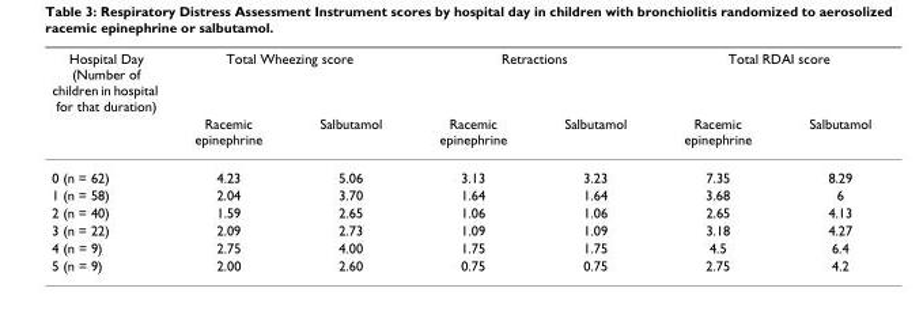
<table><thead><tr><td rowspan="2">Hospital Day (Number of children in hospital for that duration)</td><td colspan="2">Total Wheezing score</td><td colspan="2">Retractions</td><td colspan="2">Total RDAI score</td></tr><tr><td>Racemic epinephrine</td><td>Salbutamol</td><td>Racemic epinephrine</td><td>Salbutamol</td><td>Racemic epinephrine</td><td>Salbutamol</td></tr></thead><tbody><tr><td>0 (n = 62)</td><td>4.23</td><td>5.06</td><td>3.13</td><td>3.23</td><td>7.35</td><td>8.29</td></tr><tr><td>1 (n = 58)</td><td>2.04</td><td>3.70</td><td>1.64</td><td>1.64</td><td>3.68</td><td>6</td></tr><tr><td>2 (n = 40)</td><td>1.59</td><td>2.65</td><td>1.06</td><td>1.06</td><td>2.65</td><td>4.13</td></tr><tr><td>3 (n = 22)</td><td>2.09</td><td>2.73</td><td>1.09</td><td>1.09</td><td>3.18</td><td>4.27</td></tr><tr><td>4 (n = 9)</td><td>2.75</td><td>4.00</td><td>1.75</td><td>1.75</td><td>4.5</td><td>6.4</td></tr><tr><td>5 (n = 9)</td><td>2.00</td><td>2.60</td><td>0.75</td><td>0.75</td><td>2.75</td><td>4.2</td></tr></tbody></table>